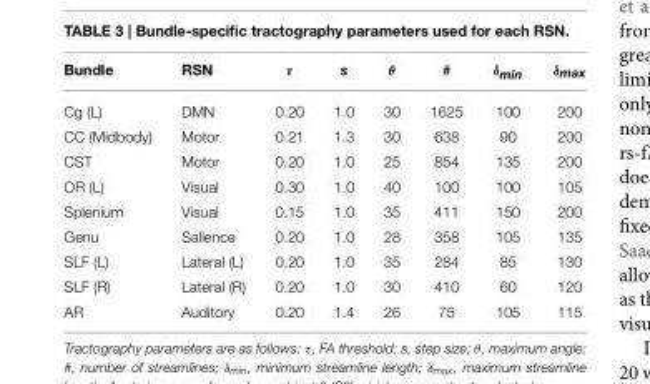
<table><thead><tr><td>Bundle</td><td>RSN</td><td>τ</td><td>s</td><td>θ</td><td>#</td><td>δ<sub>min</sub></td><td>δ<sub>max</sub></td></tr></thead><tbody><tr><td>Cg (L)</td><td>DMN</td><td>0.20</td><td>1.0</td><td>30</td><td>1625</td><td>100</td><td>200</td></tr><tr><td>CC (Midbody)</td><td>Motor</td><td>0.21</td><td>1.3</td><td>30</td><td>638</td><td>90</td><td>200</td></tr><tr><td>CST</td><td>Motor</td><td>0.20</td><td>1.0</td><td>25</td><td>854</td><td>135</td><td>200</td></tr><tr><td>OR (L)</td><td>Visual</td><td>0.30</td><td>1.0</td><td>40</td><td>100</td><td>100</td><td>105</td></tr><tr><td>Splenium</td><td>Visual</td><td>0.15</td><td>1.0</td><td>35</td><td>411</td><td>150</td><td>200</td></tr><tr><td>Genu</td><td>Salience</td><td>0.20</td><td>1.0</td><td>28</td><td>358</td><td>105</td><td>135</td></tr><tr><td>SLF (L)</td><td>Lateral (L)</td><td>0.20</td><td>1.0</td><td>35</td><td>284</td><td>85</td><td>130</td></tr><tr><td>SLF (R)</td><td>Lateral (R)</td><td>0.20</td><td>1.0</td><td>30</td><td>410</td><td>60</td><td>120</td></tr><tr><td>AR</td><td>Auditory</td><td>0.20</td><td>1.4</td><td>26</td><td>75</td><td>105</td><td>115</td></tr></tbody></table>